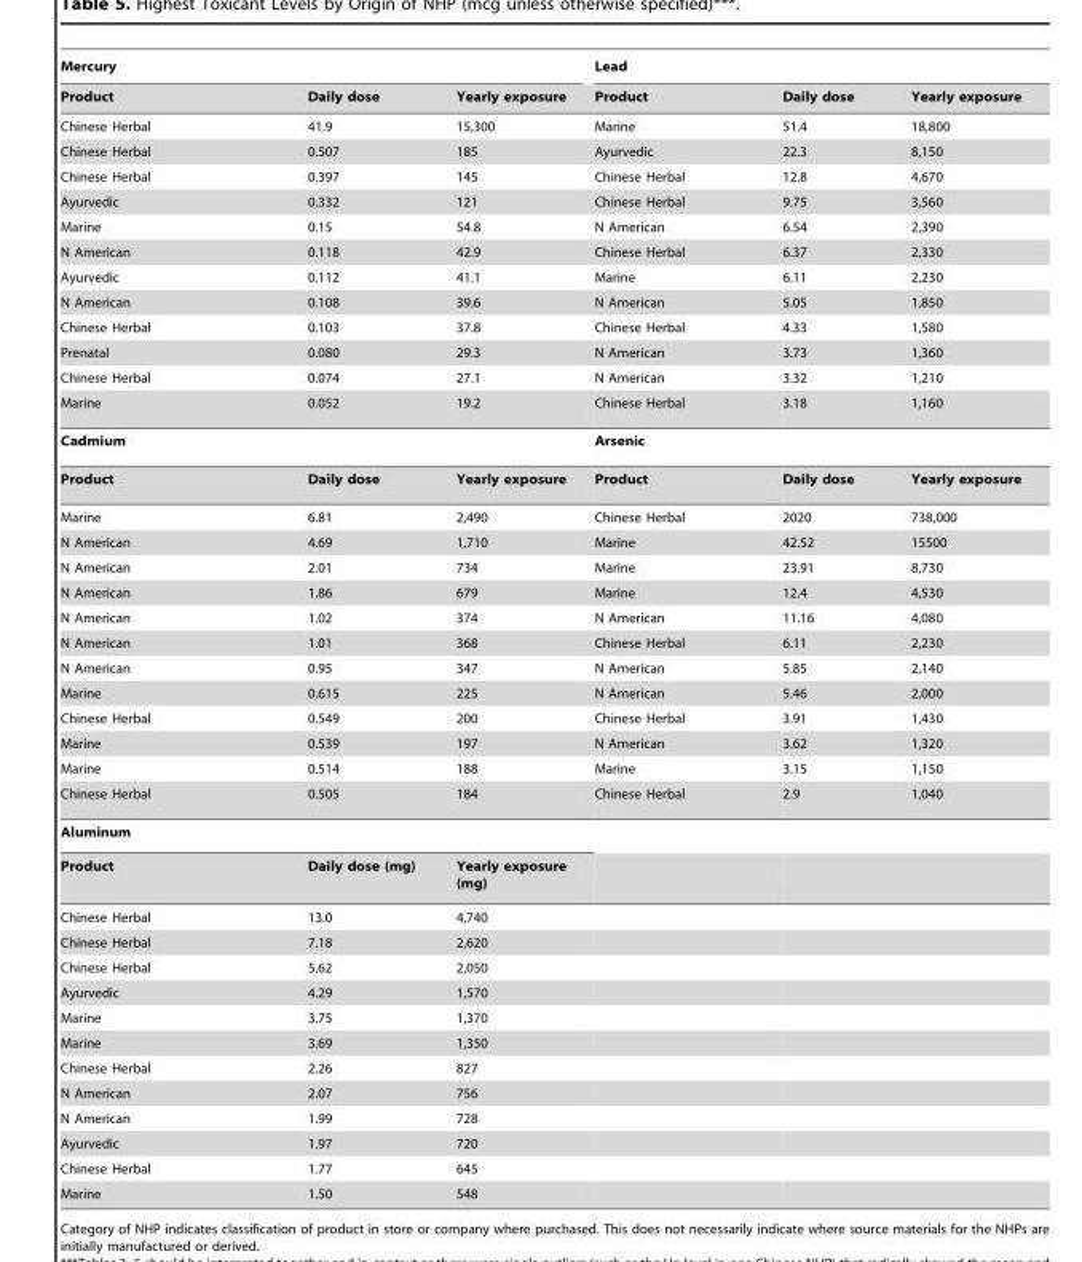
<table><thead><tr><td colspan="3">Mercury</td><td colspan="3">Lead</td></tr><tr><td>Product</td><td>Daily dose</td><td>Yearly exposure</td><td>Product</td><td>Daily dose</td><td>Yearly exposure</td></tr></thead><tbody><tr><td>Chinese Herbal</td><td>41.9</td><td>15,300</td><td>Marine</td><td>51.4</td><td>18,800</td></tr><tr><td>Chinese Herbal</td><td>0.507</td><td>185</td><td>Ayurvedic</td><td>22.3</td><td>8,150</td></tr><tr><td>Chinese Herbal</td><td>0.397</td><td>145</td><td>Chinese Herbal</td><td>12.8</td><td>4,670</td></tr><tr><td>Ayurvedic</td><td>0.332</td><td>121</td><td>Chinese Herbal</td><td>9.75</td><td>3,560</td></tr><tr><td>Marine</td><td>0.15</td><td>54.8</td><td>N American</td><td>6.54</td><td>2,390</td></tr><tr><td>N American</td><td>0.118</td><td>42.9</td><td>Chinese Herbal</td><td>6.37</td><td>2,330</td></tr><tr><td>Ayurvedic</td><td>0.112</td><td>41.1</td><td>Marine</td><td>6.11</td><td>2,230</td></tr><tr><td>N American</td><td>0.108</td><td>39.6</td><td>N American</td><td>5.05</td><td>1,850</td></tr><tr><td>Chinese Herbal</td><td>0.103</td><td>37.8</td><td>Chinese Herbal</td><td>4.33</td><td>1,580</td></tr><tr><td>Prenatal</td><td>0.080</td><td>29.3</td><td>N American</td><td>3.73</td><td>1,360</td></tr><tr><td>Chinese Herbal</td><td>0.074</td><td>27.1</td><td>N American</td><td>3.32</td><td>1,210</td></tr><tr><td>Marine</td><td>0.052</td><td>19.2</td><td>Chinese Herbal</td><td>3.18</td><td>1,160</td></tr><tr><td colspan="3">Cadmium</td><td colspan="3">Arsenic</td></tr><tr><td>Product</td><td>Daily dose</td><td>Yearly exposure</td><td>Product</td><td>Daily dose</td><td>Yearly exposure</td></tr><tr><td>Marine</td><td>6.81</td><td>2,490</td><td>Chinese Herbal</td><td>2020</td><td>738,000</td></tr><tr><td>N American</td><td>4.69</td><td>1,710</td><td>Marine</td><td>42.52</td><td>15500</td></tr><tr><td>N American</td><td>2.01</td><td>734</td><td>Marine</td><td>23.91</td><td>8,730</td></tr><tr><td>N American</td><td>1.86</td><td>679</td><td>Marine</td><td>12.4</td><td>4,530</td></tr><tr><td>N American</td><td>1.02</td><td>374</td><td>N American</td><td>11.16</td><td>4,080</td></tr><tr><td>N American</td><td>1.01</td><td>368</td><td>Chinese Herbal</td><td>6.11</td><td>2,230</td></tr><tr><td>N American</td><td>0.95</td><td>347</td><td>N American</td><td>5.85</td><td>2,140</td></tr><tr><td>Marine</td><td>0.615</td><td>225</td><td>N American</td><td>5.46</td><td>2,000</td></tr><tr><td>Chinese Herbal</td><td>0.549</td><td>200</td><td>Chinese Herbal</td><td>3.91</td><td>1,430</td></tr><tr><td>Marine</td><td>0.539</td><td>197</td><td>N American</td><td>3.62</td><td>1,320</td></tr><tr><td>Marine</td><td>0.514</td><td>188</td><td>Marine</td><td>3.15</td><td>1,150</td></tr><tr><td>Chinese Herbal</td><td>0.505</td><td>184</td><td>Chinese Herbal</td><td>2.9</td><td>1,040</td></tr><tr><td colspan="6">Aluminum</td></tr><tr><td>Product</td><td>Daily dose (mg)</td><td>Yearly exposure (mg)</td><td></td><td></td><td></td></tr><tr><td>Chinese Herbal</td><td>13.0</td><td>4,740</td><td></td><td></td><td></td></tr><tr><td>Chinese Herbal</td><td>7.18</td><td>2,620</td><td></td><td></td><td></td></tr><tr><td>Chinese Herbal</td><td>5.62</td><td>2,050</td><td></td><td></td><td></td></tr><tr><td>Ayurvedic</td><td>4.29</td><td>1,570</td><td></td><td></td><td></td></tr><tr><td>Marine</td><td>3.75</td><td>1,370</td><td></td><td></td><td></td></tr><tr><td>Marine</td><td>3.69</td><td>1,350</td><td></td><td></td><td></td></tr><tr><td>Chinese Herbal</td><td>2.26</td><td>827</td><td></td><td></td><td></td></tr><tr><td>N American</td><td>2.07</td><td>756</td><td></td><td></td><td></td></tr><tr><td>N American</td><td>1.99</td><td>728</td><td></td><td></td><td></td></tr><tr><td>Ayurvedic</td><td>1.97</td><td>720</td><td></td><td></td><td></td></tr><tr><td>Chinese Herbal</td><td>1.77</td><td>645</td><td></td><td></td><td></td></tr><tr><td>Marine</td><td>1.50</td><td>548</td><td></td><td></td><td></td></tr></tbody></table>